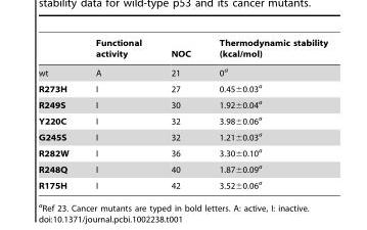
<table><thead><tr><td></td><td>Functional activity</td><td>NOC</td><td>Thermodynamic stability (kcal/mol)</td></tr></thead><tbody><tr><td>wt</td><td>A</td><td>21</td><td>0<sup>a</sup></td></tr><tr><td>R273H</td><td>I</td><td>27</td><td>0.45±0.03<sup>a</sup></td></tr><tr><td>R249S</td><td>I</td><td>30</td><td>1.92±0.04<sup>a</sup></td></tr><tr><td>Y220C</td><td>I</td><td>32</td><td>3.98±0.06<sup>a</sup></td></tr><tr><td>G245S</td><td>I</td><td>32</td><td>1.21±0.03<sup>a</sup></td></tr><tr><td>R282W</td><td>I</td><td>36</td><td>3.30±0.10<sup>a</sup></td></tr><tr><td>R248Q</td><td>I</td><td>40</td><td>1.87±0.09<sup>a</sup></td></tr><tr><td>R175H</td><td>I</td><td>42</td><td>3.52±0.06<sup>a</sup></td></tr></tbody></table>